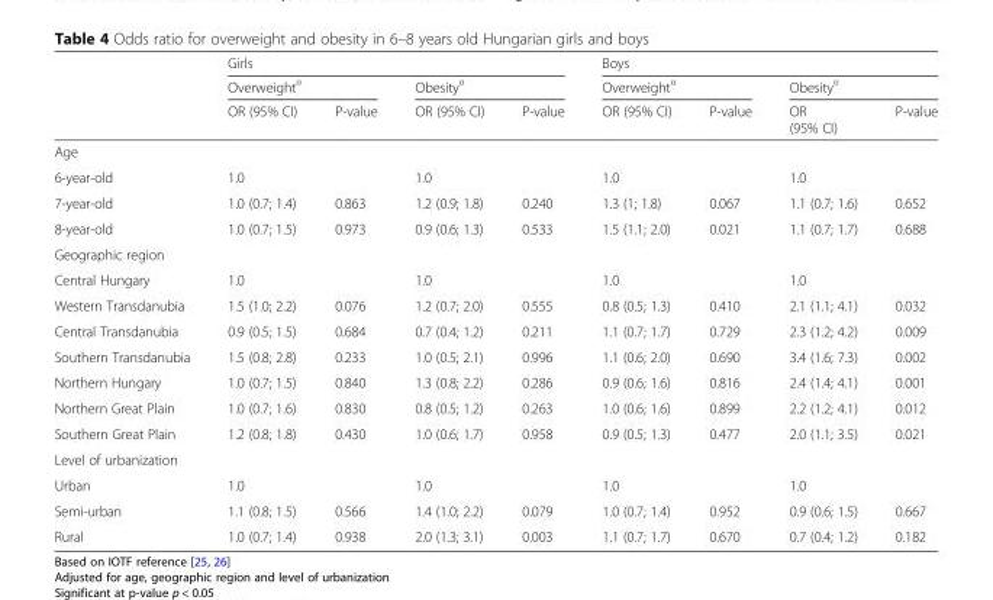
<table><thead><tr><td rowspan="3"></td><td colspan="4">Girls</td><td colspan="4">Boys</td></tr><tr><td colspan="2">Overweight<sup>¤</sup></td><td colspan="2">Obesity<sup>¤</sup></td><td colspan="2">Overweight<sup>¤</sup></td><td colspan="2">Obesity<sup>¤</sup></td></tr><tr><td>OR (95% CI)</td><td>P-value</td><td>OR (95% CI)</td><td>P-value</td><td>OR (95% CI)</td><td>P-value</td><td>OR (95% CI)</td><td>P-value</td></tr></thead><tbody><tr><td colspan="9">Age</td></tr><tr><td>6-year-old</td><td>1.0</td><td></td><td>1.0</td><td></td><td>1.0</td><td></td><td>1.0</td><td></td></tr><tr><td>7-year-old</td><td>1.0 (0.7; 1.4)</td><td>0.863</td><td>1.2 (0.9; 1.8)</td><td>0.240</td><td>1.3 (1; 1.8)</td><td>0.067</td><td>1.1 (0.7; 1.6)</td><td>0.652</td></tr><tr><td>8-year-old</td><td>1.0 (0.7; 1.5)</td><td>0.973</td><td>0.9 (0.6; 1.3)</td><td>0.533</td><td>1.5 (1.1; 2.0)</td><td>0.021</td><td>1.1 (0.7; 1.7)</td><td>0.688</td></tr><tr><td colspan="9">Geographic region</td></tr><tr><td>Central Hungary</td><td>1.0</td><td></td><td>1.0</td><td></td><td>1.0</td><td></td><td>1.0</td><td></td></tr><tr><td>Western Transdanubia</td><td>1.5 (1.0; 2.2)</td><td>0.076</td><td>1.2 (0.7; 2.0)</td><td>0.555</td><td>0.8 (0.5; 1.3)</td><td>0.410</td><td>2.1 (1.1; 4.1)</td><td>0.032</td></tr><tr><td>Central Transdanubia</td><td>0.9 (0.5; 1.5)</td><td>0.684</td><td>0.7 (0.4; 1.2)</td><td>0.211</td><td>1.1 (0.7; 1.7)</td><td>0.729</td><td>2.3 (1.2; 4.2)</td><td>0.009</td></tr><tr><td>Southern Transdanubia</td><td>1.5 (0.8; 2.8)</td><td>0.233</td><td>1.0 (0.5; 2.1)</td><td>0.996</td><td>1.1 (0.6; 2.0)</td><td>0.690</td><td>3.4 (1.6; 7.3)</td><td>0.002</td></tr><tr><td>Northern Hungary</td><td>1.0 (0.7; 1.5)</td><td>0.840</td><td>1.3 (0.8; 2.2)</td><td>0.286</td><td>0.9 (0.6; 1.6)</td><td>0.816</td><td>2.4 (1.4; 4.1)</td><td>0.001</td></tr><tr><td>Northern Great Plain</td><td>1.0 (0.7; 1.6)</td><td>0.830</td><td>0.8 (0.5; 1.2)</td><td>0.263</td><td>1.0 (0.6; 1.6)</td><td>0.899</td><td>2.2 (1.2; 4.1)</td><td>0.012</td></tr><tr><td>Southern Great Plain</td><td>1.2 (0.8; 1.8)</td><td>0.430</td><td>1.0 (0.6; 1.7)</td><td>0.958</td><td>0.9 (0.5; 1.3)</td><td>0.477</td><td>2.0 (1.1; 3.5)</td><td>0.021</td></tr><tr><td colspan="9">Level of urbanization</td></tr><tr><td>Urban</td><td>1.0</td><td></td><td>1.0</td><td></td><td>1.0</td><td></td><td>1.0</td><td></td></tr><tr><td>Semi-urban</td><td>1.1 (0.8; 1.5)</td><td>0.566</td><td>1.4 (1.0; 2.2)</td><td>0.079</td><td>1.0 (0.7; 1.4)</td><td>0.952</td><td>0.9 (0.6; 1.5)</td><td>0.667</td></tr><tr><td>Rural</td><td>1.0 (0.7; 1.4)</td><td>0.938</td><td>2.0 (1.3; 3.1)</td><td>0.003</td><td>1.1 (0.7; 1.7)</td><td>0.670</td><td>0.7 (0.4; 1.2)</td><td>0.182</td></tr></tbody></table>